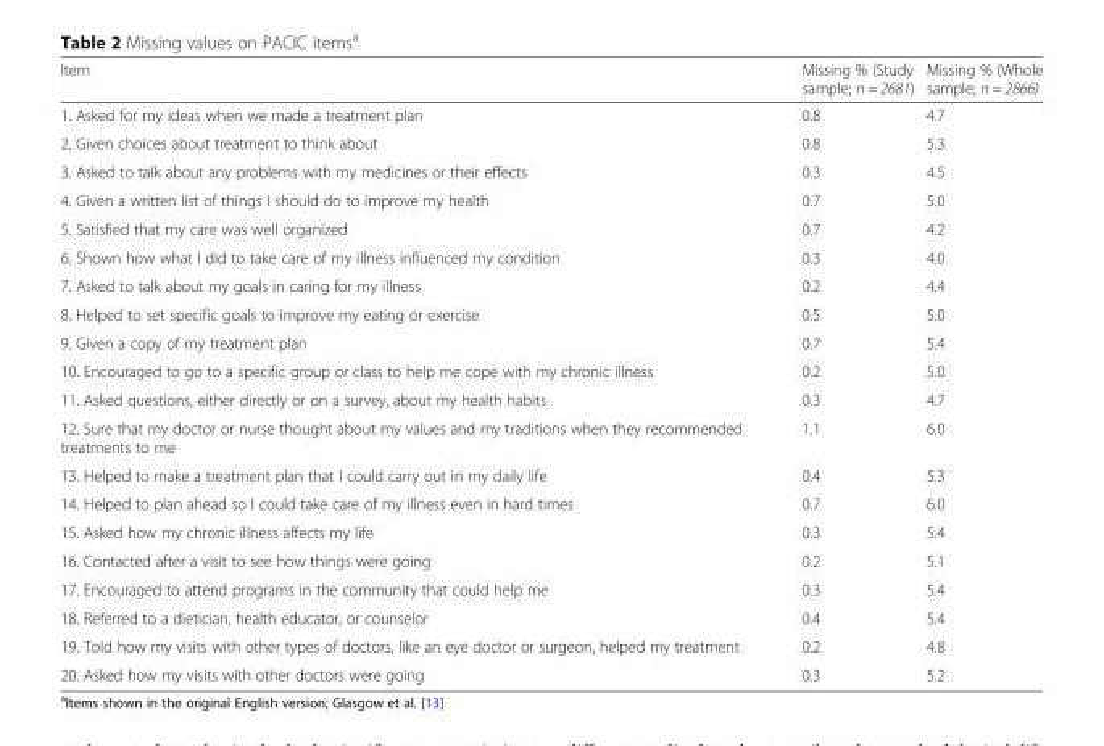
<table><thead><tr><td>Item</td><td>Missing % (Study sample; n = 2681)</td><td>Missing % (Whole sample; n = 2866)</td></tr></thead><tbody><tr><td>1. Asked for my ideas when we made a treatment plan</td><td>0.8</td><td>4.7</td></tr><tr><td>2. Given choices about treatment to think about</td><td>0.8</td><td>5.3</td></tr><tr><td>3. Asked to talk about any problems with my medicines or their effects</td><td>0.3</td><td>4.5</td></tr><tr><td>4. Given a written list of things I should do to improve my health</td><td>0.7</td><td>5.0</td></tr><tr><td>5. Satisfied that my care was well organized</td><td>0.7</td><td>4.2</td></tr><tr><td>6. Shown how what I did to take care of my illness influenced my condition</td><td>0.3</td><td>4.0</td></tr><tr><td>7. Asked to talk about my goals in caring for my illness</td><td>0.2</td><td>4.4</td></tr><tr><td>8. Helped to set specific goals to improve my eating or exercise</td><td>0.5</td><td>5.0</td></tr><tr><td>9. Given a copy of my treatment plan</td><td>0.7</td><td>5.4</td></tr><tr><td>10. Encouraged to go to a specific group or class to help me cope with my chronic illness</td><td>0.2</td><td>5.0</td></tr><tr><td>11. Asked questions, either directly or on a survey, about my health habits</td><td>0.3</td><td>4.7</td></tr><tr><td>12. Sure that my doctor or nurse thought about my values and my traditions when they recommended treatments to me</td><td>1.1</td><td>6.0</td></tr><tr><td>13. Helped to make a treatment plan that I could carry out in my daily life</td><td>0.4</td><td>5.3</td></tr><tr><td>14. Helped to plan ahead so I could take care of my illness even in hard times</td><td>0.7</td><td>6.0</td></tr><tr><td>15. Asked how my chronic illness affects my life</td><td>0.3</td><td>5.4</td></tr><tr><td>16. Contacted after a visit to see how things were going</td><td>0.2</td><td>5.1</td></tr><tr><td>17. Encouraged to attend programs in the community that could help me</td><td>0.3</td><td>5.4</td></tr><tr><td>18. Referred to a dietician, health educator, or counselor</td><td>0.4</td><td>5.4</td></tr><tr><td>19. Told how my visits with other types of doctors, like an eye doctor or surgeon, helped my treatment</td><td>0.2</td><td>4.8</td></tr><tr><td>20. Asked how my visits with other doctors were going</td><td>0.3</td><td>5.2</td></tr></tbody></table>